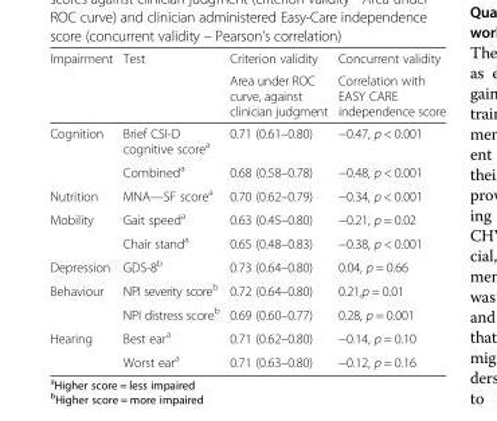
<table><thead><tr><td rowspan="2">Impairment</td><td rowspan="2">Test</td><td rowspan="2">Criterion validity Area under ROC curve, against clinician judgment</td><td rowspan="2">Concurrent validity Correlation with EASY CARE independence score</td></tr><tr></tr></thead><tbody><tr><td rowspan="2">Cognition</td><td>Brief CSI-D cognitive score<sup>a</sup></td><td>0.71 (0.61–0.80)</td><td>−0.47, p &lt; 0.001</td></tr><tr><td>Combined<sup>a</sup></td><td>0.68 (0.58–0.78)</td><td>−0.48, p &lt; 0.001</td></tr><tr><td>Nutrition</td><td>MNA—SF score<sup>a</sup></td><td>0.70 (0.62–0.79)</td><td>−0.34, p &lt; 0.001</td></tr><tr><td rowspan="2">Mobility</td><td>Gait speed<sup>a</sup></td><td>0.63 (0.45–0.80)</td><td>−0.21, p = 0.02</td></tr><tr><td>Chair stand<sup>a</sup></td><td>0.65 (0.48–0.83)</td><td>−0.38, p &lt; 0.001</td></tr><tr><td>Depression</td><td>GDS-8<sup>b</sup></td><td>0.73 (0.64–0.80)</td><td>0.04, p = 0.66</td></tr><tr><td rowspan="2">Behaviour</td><td>NPI severity score<sup>b</sup></td><td>0.72 (0.64–0.80)</td><td>0.21,p = 0.01</td></tr><tr><td>NPI distress score<sup>b</sup></td><td>0.69 (0.60–0.77)</td><td>0.28, p = 0.001</td></tr><tr><td rowspan="2">Hearing</td><td>Best ear<sup>a</sup></td><td>0.71 (0.62–0.80)</td><td>−0.14, p = 0.10</td></tr><tr><td>Worst ear<sup>a</sup></td><td>0.71 (0.63–0.80)</td><td>−0.12, p = 0.16</td></tr></tbody></table>